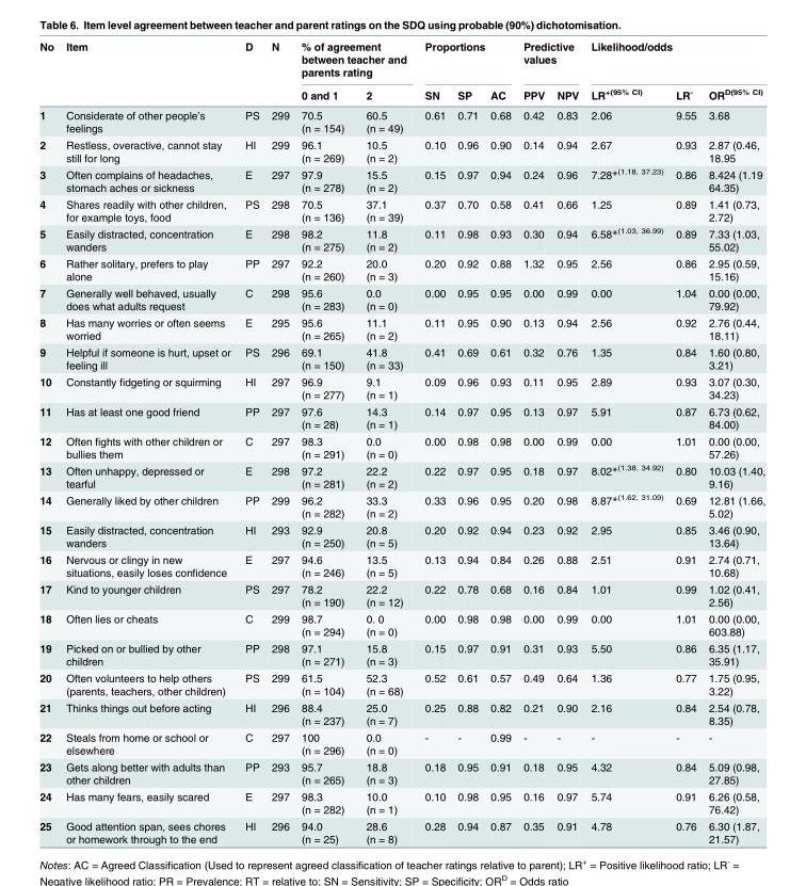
<table><thead><tr><td rowspan="2">No</td><td rowspan="2">Item</td><td rowspan="2">D</td><td rowspan="2">N</td><td colspan="2">% of agreement between teacher and parents rating</td><td colspan="3">Proportions</td><td colspan="2">Predictive values</td><td colspan="3">Likelihood/odds</td></tr><tr><td>0 and 1</td><td>2</td><td>SN</td><td>SP</td><td>AC</td><td>PPV</td><td>NPV</td><td>LR<sup>+(95% CI)</sup></td><td>LR<sup>-</sup></td><td>OR<sup>D(95% CI)</sup></td></tr></thead><tbody><tr><td>1</td><td>Considerate of other people’s feelings</td><td>PS</td><td>299</td><td>70.5 (n = 154)</td><td>60.5 (n = 49)</td><td>0.61</td><td>0.71</td><td>0.68</td><td>0.42</td><td>0.83</td><td>2.06</td><td>9.55</td><td>3.68</td></tr><tr><td>2</td><td>Restless, overactive, cannot stay still for long</td><td>HI</td><td>299</td><td>96.1 (n = 269)</td><td>10.5 (n = 2)</td><td>0.10</td><td>0.96</td><td>0.90</td><td>0.14</td><td>0.94</td><td>2.67</td><td>0.93</td><td>2.87 (0.46, 18.95</td></tr><tr><td>3</td><td>Often complains of headaches, stomach aches or sickness</td><td>E</td><td>297</td><td>97.9 (n = 278)</td><td>15.5 (n = 2)</td><td>0.15</td><td>0.97</td><td>0.94</td><td>0.24</td><td>0.96</td><td>7.28*<sup>(1.18, 37.23)</sup></td><td>0.86</td><td>8.424 (1.19 64.35)</td></tr><tr><td>4</td><td>Shares readily with other children, for example toys, food</td><td>PS</td><td>298</td><td>70.5 (n = 136)</td><td>37.1 (n = 39)</td><td>0.37</td><td>0.70</td><td>0.58</td><td>0.41</td><td>0.66</td><td>1.25</td><td>0.89</td><td>1.41 (0.73, 2.72)</td></tr><tr><td>5</td><td>Easily distracted, concentration wanders</td><td>E</td><td>298</td><td>98.2 (n = 275)</td><td>11.8 (n = 2)</td><td>0.11</td><td>0.98</td><td>0.93</td><td>0.30</td><td>0.94</td><td>6.58*<sup>(1.03, 36.99)</sup></td><td>0.89</td><td>7.33 (1.03, 55.02)</td></tr><tr><td>6</td><td>Rather solitary, prefers to play alone</td><td>PP</td><td>297</td><td>92.2 (n = 260)</td><td>20.0 (n = 3)</td><td>0.20</td><td>0.92</td><td>0.88</td><td>1.32</td><td>0.95</td><td>2.56</td><td>0.86</td><td>2.95 (0.59, 15.16)</td></tr><tr><td>7</td><td>Generally well behaved, usually does what adults request</td><td>C</td><td>298</td><td>95.6 (n = 283)</td><td>0.0 (n = 0)</td><td>0.00</td><td>0.95</td><td>0.95</td><td>0.00</td><td>0.99</td><td>0.00</td><td>1.04</td><td>0.00 (0.00, 79.92)</td></tr><tr><td>8</td><td>Has many worries or often seems worried</td><td>E</td><td>295</td><td>95.6 (n = 265)</td><td>11.1 (n = 2)</td><td>0.11</td><td>0.95</td><td>0.90</td><td>0.13</td><td>0.94</td><td>2.56</td><td>0.92</td><td>2.76 (0.44, 18.11)</td></tr><tr><td>9</td><td>Helpful if someone is hurt, upset or feeling ill</td><td>PS</td><td>296</td><td>69.1 (n = 150)</td><td>41.8 (n = 33)</td><td>0.41</td><td>0.69</td><td>0.61</td><td>0.32</td><td>0.76</td><td>1.35</td><td>0.84</td><td>1.60 (0.80, 3.21)</td></tr><tr><td>10</td><td>Constantly fidgeting or squirming</td><td>HI</td><td>297</td><td>96.9 (n = 277)</td><td>9.1 (n = 1)</td><td>0.09</td><td>0.96</td><td>0.93</td><td>0.11</td><td>0.95</td><td>2.89</td><td>0.93</td><td>3.07 (0.30, 34.23)</td></tr><tr><td>11</td><td>Has at least one good friend</td><td>PP</td><td>297</td><td>97.6 (n = 28)</td><td>14.3 (n = 1)</td><td>0.14</td><td>0.97</td><td>0.95</td><td>0.13</td><td>0.97</td><td>5.91</td><td>0.87</td><td>6.73 (0.62, 84.00)</td></tr><tr><td>12</td><td>Often fights with other children or bullies them</td><td>C</td><td>297</td><td>98.3 (n = 291)</td><td>0.0 (n = 0)</td><td>0.00</td><td>0.98</td><td>0.98</td><td>0.00</td><td>0.99</td><td>0.00</td><td>1.01</td><td>0.00 (0.00, 57.26)</td></tr><tr><td>13</td><td>Often unhappy, depressed or tearful</td><td>E</td><td>298</td><td>97.2 (n = 281)</td><td>22.2 (n = 2)</td><td>0.22</td><td>0.97</td><td>0.95</td><td>0.18</td><td>0.97</td><td>8.02*<sup>(1.38, 34.92)</sup></td><td>0.80</td><td>10.03 (1.40, 9.16)</td></tr><tr><td>14</td><td>Generally liked by other children</td><td>PP</td><td>299</td><td>96.2 (n = 282)</td><td>33.3 (n = 2)</td><td>0.33</td><td>0.96</td><td>0.95</td><td>0.20</td><td>0.98</td><td>8.87*<sup>(1.62, 31.09)</sup></td><td>0.69</td><td>12.81 (1.66, 5.02)</td></tr><tr><td>15</td><td>Easily distracted, concentration wanders</td><td>HI</td><td>293</td><td>92.9 (n = 250)</td><td>20.8 (n = 5)</td><td>0.20</td><td>0.92</td><td>0.94</td><td>0.23</td><td>0.92</td><td>2.95</td><td>0.85</td><td>3.46 (0.90, 13.64)</td></tr><tr><td>16</td><td>Nervous or clingy in new situations, easily loses confidence</td><td>E</td><td>297</td><td>94.6 (n = 246)</td><td>13.5 (n = 5)</td><td>0.13</td><td>0.94</td><td>0.84</td><td>0.26</td><td>0.88</td><td>2.51</td><td>0.91</td><td>2.74 (0.71, 10.68)</td></tr><tr><td>17</td><td>Kind to younger children</td><td>PS</td><td>297</td><td>78.2 (n = 190)</td><td>22.2 (n = 12)</td><td>0.22</td><td>0.78</td><td>0.68</td><td>0.16</td><td>0.84</td><td>1.01</td><td>0.99</td><td>1.02 (0.41, 2.56)</td></tr><tr><td>18</td><td>Often lies or cheats</td><td>C</td><td>299</td><td>98.7 (n = 294)</td><td>0. 0 (n = 0)</td><td>0.00</td><td>0.98</td><td>0.98</td><td>0.00</td><td>0.99</td><td>0.00</td><td>1.01</td><td>0.00 (0.00, 603.88)</td></tr><tr><td>19</td><td>Picked on or bullied by other children</td><td>PP</td><td>298</td><td>97.1 (n = 271)</td><td>15.8 (n = 3)</td><td>0.15</td><td>0.97</td><td>0.91</td><td>0.31</td><td>0.93</td><td>5.50</td><td>0.86</td><td>6.35 (1.17, 35.91)</td></tr><tr><td>20</td><td>Often volunteers to help others (parents, teachers, other children)</td><td>PS</td><td>299</td><td>61.5 (n = 104)</td><td>52.3 (n = 68)</td><td>0.52</td><td>0.61</td><td>0.57</td><td>0.49</td><td>0.64</td><td>1.36</td><td>0.77</td><td>1.75 (0.95, 3.22)</td></tr><tr><td>21</td><td>Thinks things out before acting</td><td>HI</td><td>296</td><td>88.4 (n = 237)</td><td>25.0 (n = 7)</td><td>0.25</td><td>0.88</td><td>0.82</td><td>0.21</td><td>0.90</td><td>2.16</td><td>0.84</td><td>2.54 (0.78, 8.35)</td></tr><tr><td>22</td><td>Steals from home or school or elsewhere</td><td>C</td><td>297</td><td>100 (n = 296)</td><td>0.0 (n = 0)</td><td>-</td><td>-</td><td>0.99</td><td>-</td><td>-</td><td>-</td><td>-</td><td>-</td></tr><tr><td>23</td><td>Gets along better with adults than other children</td><td>PP</td><td>293</td><td>95.7 (n = 265)</td><td>18.8 (n = 3)</td><td>0.18</td><td>0.95</td><td>0.91</td><td>0.18</td><td>0.95</td><td>4.32</td><td>0.84</td><td>5.09 (0.98, 27.85)</td></tr><tr><td>24</td><td>Has many fears, easily scared</td><td>E</td><td>297</td><td>98.3 (n = 282)</td><td>10.0 (n = 1)</td><td>0.10</td><td>0.98</td><td>0.95</td><td>0.16</td><td>0.97</td><td>5.74</td><td>0.91</td><td>6.26 (0.58, 76.42)</td></tr><tr><td>25</td><td>Good attention span, sees chores or homework through to the end</td><td>HI</td><td>296</td><td>94.0 (n = 25)</td><td>28.6 (n = 8)</td><td>0.28</td><td>0.94</td><td>0.87</td><td>0.35</td><td>0.91</td><td>4.78</td><td>0.76</td><td>6.30 (1.87, 21.57)</td></tr></tbody></table>